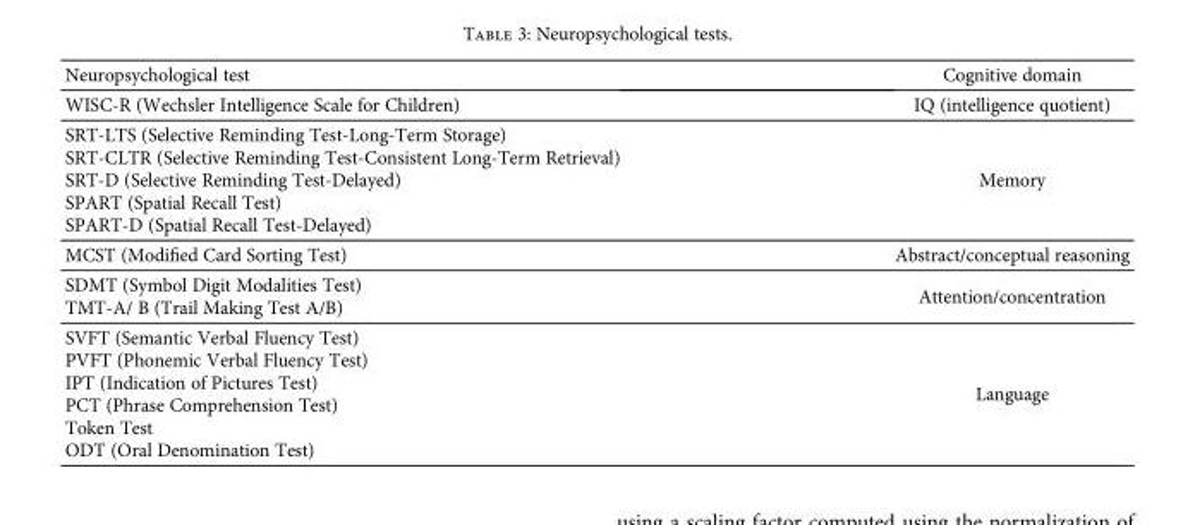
<table><thead><tr><td>Neuropsychological test</td><td>Cognitive domain</td></tr></thead><tbody><tr><td>WISC-R (Wechsler Intelligence Scale for Children)</td><td>IQ (intelligence quotient)</td></tr><tr><td>SRT-LTS (Selective Reminding Test-Long-Term Storage) SRT-CLTR (Selective Reminding Test-Consistent Long-Term Retrieval) SRT-D (Selective Reminding Test-Delayed) SPART (Spatial Recall Test) SPART-D (Spatial Recall Test-Delayed)</td><td>Memory</td></tr><tr><td>MCST (Modified Card Sorting Test)</td><td>Abstract/conceptual reasoning</td></tr><tr><td>SDMT (Symbol Digit Modalities Test) TMT-A/ B (Trail Making Test A/B)</td><td>Attention/concentration</td></tr><tr><td>SVFT (Semantic Verbal Fluency Test) PVFT (Phonemic Verbal Fluency Test) IPT (Indication of Pictures Test) PCT (Phrase Comprehension Test) Token Test ODT (Oral Denomination Test)</td><td>Language</td></tr></tbody></table>